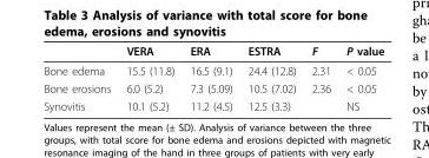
<table><thead><tr><td></td><td>VERA</td><td>ERA</td><td>ESTRA</td><td>F</td><td>P value</td></tr></thead><tbody><tr><td>Bone edema</td><td>15.5 (11.8)</td><td>16.5 (9.1)</td><td>24.4 (12.8)</td><td>2.31</td><td>&lt; 0.05</td></tr><tr><td>Bone erosions</td><td>6.0 (5.2)</td><td>7.3 (5.09)</td><td>10.5 (7.02)</td><td>2.36</td><td>&lt; 0.05</td></tr><tr><td>Synovitis</td><td>10.1 (5.2)</td><td>11.2 (4.5)</td><td>12.5 (3.3)</td><td></td><td>NS</td></tr></tbody></table>